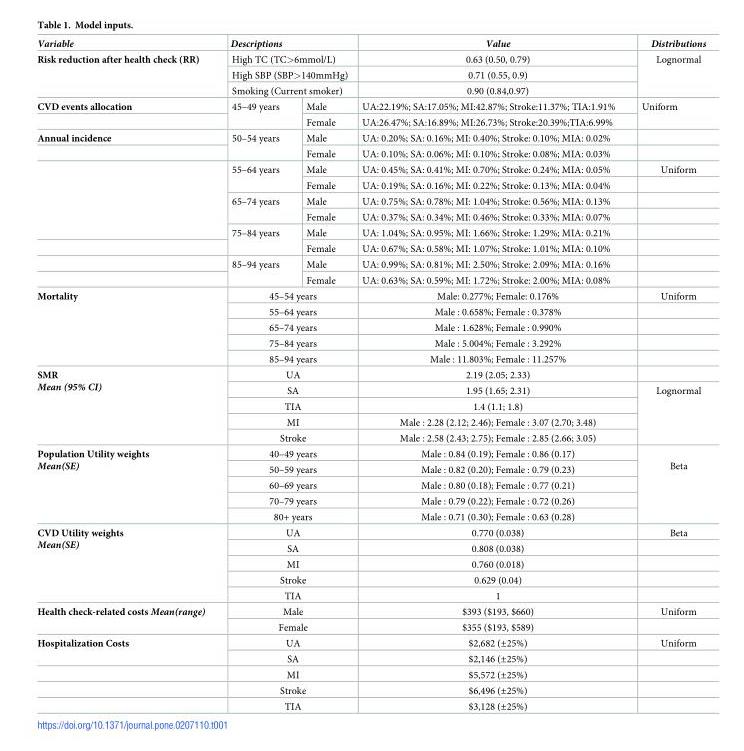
<table><thead><tr><td>Variable</td><td colspan="2">Descriptions</td><td>Value</td><td>Distributions</td></tr></thead><tbody><tr><td rowspan="3">Risk reduction after health check (RR)</td><td colspan="2">High TC (TC&gt;6mmol/L)</td><td>0.63 (0.50, 0.79)</td><td rowspan="3">Lognormal</td></tr><tr><td colspan="2">High SBP (SBP&gt;140mmHg)</td><td>0.71 (0.55, 0.9)</td></tr><tr><td colspan="2">Smoking (Current smoker)</td><td>0.90 (0.84,0.97)</td></tr><tr><td rowspan="2">CVD events allocation</td><td rowspan="2">45–49 years</td><td>Male</td><td>UA:22.19%; SA:17.05%; MI:42.87%; Stroke:11.37%; TIA:1.91%</td><td rowspan="2">Uniform</td></tr><tr><td>Female</td><td>UA:26.47%; SA:16.89%; MI:26.73%; Stroke:20.39%;TIA:6.99%</td></tr><tr><td rowspan="10">Annual incidence</td><td rowspan="2">50–54 years</td><td>Male</td><td>UA: 0.20%; SA: 0.16%; MI: 0.40%; Stroke: 0.10%; MIA: 0.02%</td><td></td></tr><tr><td>Female</td><td>UA: 0.10%; SA: 0.06%; MI: 0.10%; Stroke: 0.08%; MIA: 0.03%</td><td></td></tr><tr><td rowspan="2">55–64 years</td><td>Male</td><td>UA: 0.45%; SA: 0.41%; MI: 0.70%; Stroke: 0.24%; MIA: 0.05%</td><td>Uniform</td></tr><tr><td>Female</td><td>UA: 0.19%; SA: 0.16%; MI: 0.22%; Stroke: 0.13%; MIA: 0.04%</td><td></td></tr><tr><td rowspan="2">65–74 years</td><td>Male</td><td>UA: 0.75%; SA: 0.78%; MI: 1.04%; Stroke: 0.56%; MIA: 0.13%</td><td></td></tr><tr><td>Female</td><td>UA: 0.37%; SA: 0.34%; MI: 0.46%; Stroke: 0.33%; MIA: 0.07%</td><td></td></tr><tr><td rowspan="2">75–84 years</td><td>Male</td><td>UA: 1.04%; SA: 0.95%; MI: 1.66%; Stroke: 1.29%; MIA: 0.21%</td><td></td></tr><tr><td>Female</td><td>UA: 0.67%; SA: 0.58%; MI: 1.07%; Stroke: 1.01%; MIA: 0.10%</td><td></td></tr><tr><td rowspan="2">85–94 years</td><td>Male</td><td>UA: 0.99%; SA: 0.81%; MI: 2.50%; Stroke: 2.09%; MIA: 0.16%</td><td></td></tr><tr><td>Female</td><td>UA: 0.63%; SA: 0.59%; MI: 1.72%; Stroke: 2.00%; MIA: 0.08%</td><td></td></tr><tr><td rowspan="5">Mortality</td><td colspan="2">45–54 years</td><td>Male: 0.277%; Female: 0.176%</td><td>Uniform</td></tr><tr><td colspan="2">55–64 years</td><td>Male : 0.658%; Female : 0.378%</td><td></td></tr><tr><td colspan="2">65–74 years</td><td>Male : 1.628%; Female : 0.990%</td><td></td></tr><tr><td colspan="2">75–84 years</td><td>Male : 5.004%; Female : 3.292%</td><td></td></tr><tr><td colspan="2">85–94 years</td><td>Male : 11.803%; Female : 11.257%</td><td></td></tr><tr><td rowspan="5">SMR Mean (95% CI)</td><td colspan="2">UA</td><td>2.19 (2.05; 2.33)</td><td></td></tr><tr><td colspan="2">SA</td><td>1.95 (1.65; 2.31)</td><td rowspan="4">Lognormal</td></tr><tr><td colspan="2">TIA</td><td>1.4 (1.1; 1.8)</td></tr><tr><td colspan="2">MI</td><td>Male : 2.28 (2.12; 2.46); Female : 3.07 (2.70; 3.48)</td></tr><tr><td colspan="2">Stroke</td><td>Male : 2.58 (2.43; 2.75); Female : 2.85 (2.66; 3.05)</td></tr><tr><td rowspan="5">Population Utility weights Mean(SE)</td><td colspan="2">40–49 years</td><td>Male : 0.84 (0.19); Female : 0.86 (0.17)</td><td rowspan="5">Beta</td></tr><tr><td colspan="2">50–59 years</td><td>Male : 0.82 (0.20); Female : 0.79 (0.23)</td></tr><tr><td colspan="2">60–69 years</td><td>Male : 0.80 (0.18); Female : 0.77 (0.21)</td></tr><tr><td colspan="2">70–79 years</td><td>Male : 0.79 (0.22); Female : 0.72 (0.26)</td></tr><tr><td colspan="2">80+ years</td><td>Male : 0.71 (0.30); Female : 0.63 (0.28)</td></tr><tr><td rowspan="5">CVD Utility weights Mean(SE)</td><td colspan="2">UA</td><td>0.770 (0.038)</td><td>Beta</td></tr><tr><td colspan="2">SA</td><td>0.808 (0.038)</td><td></td></tr><tr><td colspan="2">MI</td><td>0.760 (0.018)</td><td></td></tr><tr><td colspan="2">Stroke</td><td>0.629 (0.04)</td><td></td></tr><tr><td colspan="2">TIA</td><td>1</td><td></td></tr><tr><td rowspan="2">Health check-related costs Mean(range)</td><td colspan="2">Male</td><td>$393 ($193, $660)</td><td>Uniform</td></tr><tr><td colspan="2">Female</td><td>$355 ($193, $589)</td><td></td></tr><tr><td rowspan="5">Hospitalization Costs</td><td colspan="2">UA</td><td>$2,682 (±25%)</td><td>Uniform</td></tr><tr><td colspan="2">SA</td><td>$2,146 (±25%)</td><td></td></tr><tr><td colspan="2">MI</td><td>$5,572 (±25%)</td><td></td></tr><tr><td colspan="2">Stroke</td><td>$6,496 (±25%)</td><td></td></tr><tr><td colspan="2">TIA</td><td>$3,128 (±25%)</td><td></td></tr></tbody></table>